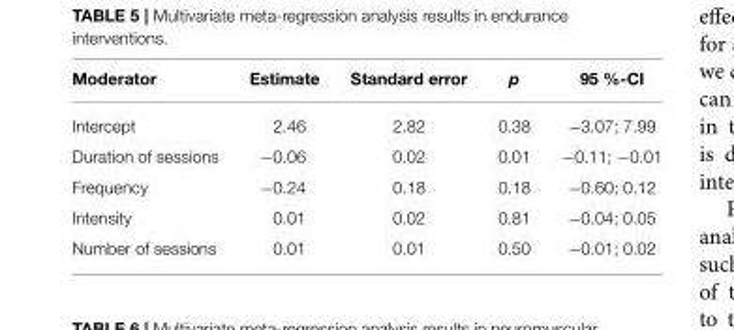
<table><thead><tr><td>Moderator</td><td>Estimate</td><td>Standard error</td><td>p</td><td>95 %-CI</td></tr></thead><tbody><tr><td>Intercept</td><td>2.46</td><td>2.82</td><td>0.38</td><td>−3.07; 7.99</td></tr><tr><td>Duration of sessions</td><td>−0.06</td><td>0.02</td><td>0.01</td><td>−0.11; −0.01</td></tr><tr><td>Frequency</td><td>−0.24</td><td>0.18</td><td>0.18</td><td>−0.60; 0.12</td></tr><tr><td>Intensity</td><td>0.01</td><td>0.02</td><td>0.81</td><td>−0.04; 0.05</td></tr><tr><td>Number of sessions</td><td>0.01</td><td>0.01</td><td>0.50</td><td>−0.01; 0.02</td></tr></tbody></table>